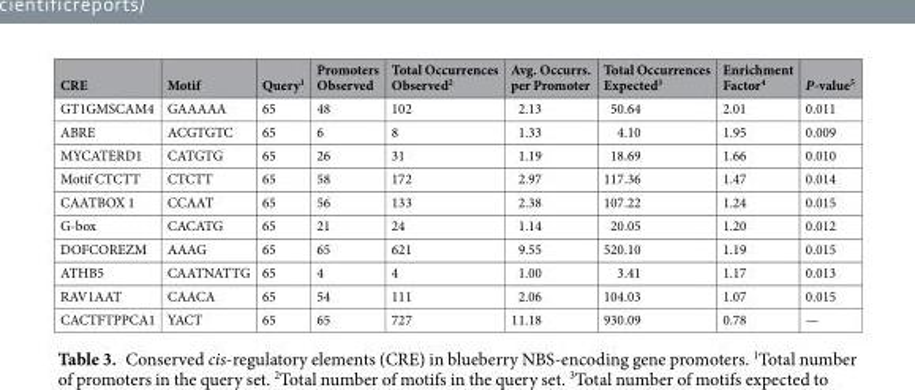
<table><thead><tr><td>CRE</td><td>Motif</td><td>Query<sup>1</sup></td><td>Promoters Observed</td><td>Total Occurrences Observed<sup>2</sup></td><td>Avg. Occurrs. per Promoter</td><td>Total Occurrences Expected<sup>3</sup></td><td>Enrichment Factor<sup>4</sup></td><td>P-value<sup>5</sup></td></tr></thead><tbody><tr><td>GT1GMSCAM4</td><td>GAAAAA</td><td>65</td><td>48</td><td>102</td><td>2.13</td><td>50.64</td><td>2.01</td><td>0.011</td></tr><tr><td>ABRE</td><td>ACGTGTC</td><td>65</td><td>6</td><td>8</td><td>1.33</td><td>4.10</td><td>1.95</td><td>0.009</td></tr><tr><td>MYCATERD1</td><td>CATGTG</td><td>65</td><td>26</td><td>31</td><td>1.19</td><td>18.69</td><td>1.66</td><td>0.010</td></tr><tr><td>Motif CTCTT</td><td>CTCTT</td><td>65</td><td>58</td><td>172</td><td>2.97</td><td>117.36</td><td>1.47</td><td>0.014</td></tr><tr><td>CAATBOX 1</td><td>CCAAT</td><td>65</td><td>56</td><td>133</td><td>2.38</td><td>107.22</td><td>1.24</td><td>0.015</td></tr><tr><td>G-box</td><td>CACATG</td><td>65</td><td>21</td><td>24</td><td>1.14</td><td>20.05</td><td>1.20</td><td>0.012</td></tr><tr><td>DOFCOREZM</td><td>AAAG</td><td>65</td><td>65</td><td>621</td><td>9.55</td><td>520.10</td><td>1.19</td><td>0.015</td></tr><tr><td>ATHB5</td><td>CAATNATTG</td><td>65</td><td>4</td><td>4</td><td>1.00</td><td>3.41</td><td>1.17</td><td>0.013</td></tr><tr><td>RAV1AAT</td><td>CAACA</td><td>65</td><td>54</td><td>111</td><td>2.06</td><td>104.03</td><td>1.07</td><td>0.015</td></tr><tr><td>CACTFTPPCA1</td><td>YACT</td><td>65</td><td>65</td><td>727</td><td>11.18</td><td>930.09</td><td>0.78</td><td>—</td></tr></tbody></table>